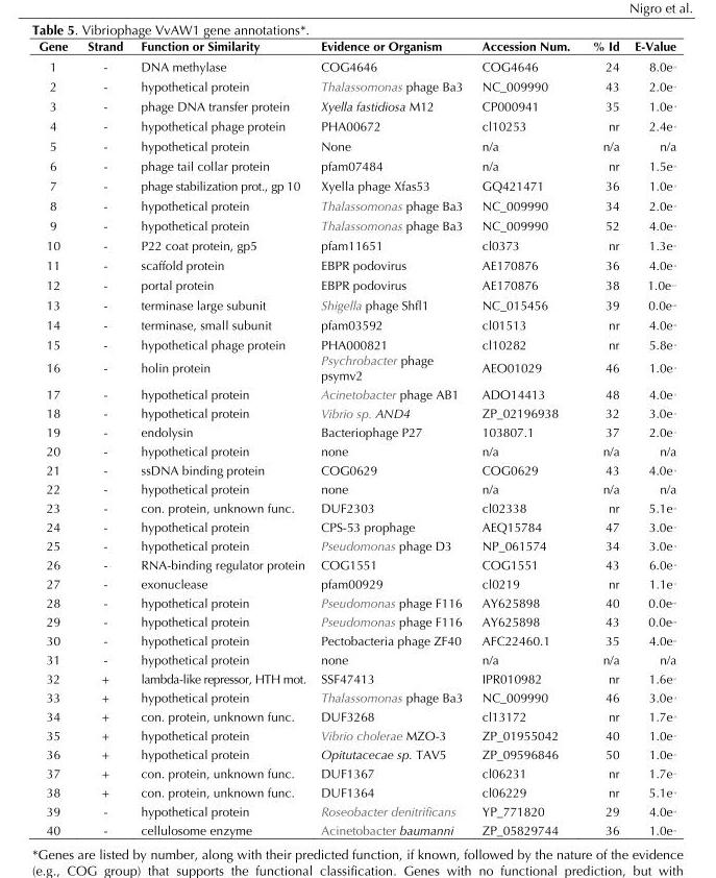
<table><thead><tr><td>Gene</td><td>Strand</td><td>Function or Similarity</td><td>Evidence or Organism</td><td>Accession Num.</td><td>% Id</td><td>E-Value</td></tr></thead><tbody><tr><td>1</td><td>-</td><td>DNA methylase</td><td>COG4646</td><td>COG4646</td><td>24</td><td>8.0e <sup>-65</sup></td></tr><tr><td>2</td><td>-</td><td>hypothetical protein</td><td>Thalassomonas phage Ba3</td><td>NC_009990</td><td>43</td><td>2.0e <sup>-63</sup></td></tr><tr><td>3</td><td>-</td><td>phage DNA transfer protein</td><td>Xyella fastidiosa M12</td><td>CP000941</td><td>35</td><td>1.0e <sup>-19</sup></td></tr><tr><td>4</td><td>-</td><td>hypothetical phage protein</td><td>PHA00672</td><td>cl10253</td><td>nr</td><td>2.4e <sup>-42</sup></td></tr><tr><td>5</td><td>-</td><td>hypothetical protein</td><td>None</td><td>n/a</td><td>n/a</td><td>n/a</td></tr><tr><td>6</td><td>-</td><td>phage tail collar protein</td><td>pfam07484</td><td>n/a</td><td>nr</td><td>1.5e <sup>-05</sup></td></tr><tr><td>7</td><td>-</td><td>phage stabilization prot., gp 10</td><td>Xyella phage Xfas53</td><td>GQ421471</td><td>36</td><td>1.0e <sup>-25</sup></td></tr><tr><td>8</td><td>-</td><td>hypothetical protein</td><td>Thalassomonas phage Ba3</td><td>NC_009990</td><td>34</td><td>2.0e <sup>-25</sup></td></tr><tr><td>9</td><td>-</td><td>hypothetical protein</td><td>Thalassomonas phage Ba3</td><td>NC_009990</td><td>52</td><td>4.0e <sup>-06</sup></td></tr><tr><td>10</td><td>-</td><td>P22 coat protein, gp5</td><td>pfam11651</td><td>cl0373</td><td>nr</td><td>1.3e <sup>-82</sup></td></tr><tr><td>11</td><td>-</td><td>scaffold protein</td><td>EBPR podovirus</td><td>AE170876</td><td>36</td><td>4.0e <sup>-30</sup></td></tr><tr><td>12</td><td>-</td><td>portal protein</td><td>EBPR podovirus</td><td>AE170876</td><td>38</td><td>1.0e <sup>-127</sup></td></tr><tr><td>13</td><td>-</td><td>terminase large subunit</td><td>Shigella phage Shfl1</td><td>NC_015456</td><td>39</td><td>0.0e <sup>+00</sup></td></tr><tr><td>14</td><td>-</td><td>terminase, small subunit</td><td>pfam03592</td><td>cl01513</td><td>nr</td><td>4.0e <sup>-09</sup></td></tr><tr><td>15</td><td>-</td><td>hypothetical phage protein</td><td>PHA000821</td><td>cl10282</td><td>nr</td><td>5.8e <sup>-10</sup></td></tr><tr><td>16</td><td>-</td><td>holin protein</td><td>Psychrobacter phage psymv2</td><td>AEO01029</td><td>46</td><td>1.0e <sup>-13</sup></td></tr><tr><td>17</td><td>-</td><td>hypothetical protein</td><td>Acinetobacter phage AB1</td><td>ADO14413</td><td>48</td><td>4.0e <sup>-21</sup></td></tr><tr><td>18</td><td>-</td><td>hypothetical protein</td><td>Vibrio sp. AND4</td><td>ZP_02196938</td><td>32</td><td>3.0e <sup>-12</sup></td></tr><tr><td>19</td><td>-</td><td>endolysin</td><td>Bacteriophage P27</td><td>103807.1</td><td>37</td><td>2.0e <sup>-11</sup></td></tr><tr><td>20</td><td>-</td><td>hypothetical protein</td><td>none</td><td>n/a</td><td>n/a</td><td>n/a</td></tr><tr><td>21</td><td>-</td><td>ssDNA binding protein</td><td>COG0629</td><td>COG0629</td><td>43</td><td>4.0e <sup>-36</sup></td></tr><tr><td>22</td><td>-</td><td>hypothetical protein</td><td>none</td><td>n/a</td><td>n/a</td><td>n/a</td></tr><tr><td>23</td><td>-</td><td>con. protein, unknown func.</td><td>DUF2303</td><td>cl02338</td><td>nr</td><td>5.1e <sup>-86</sup></td></tr><tr><td>24</td><td>-</td><td>hypothetical protein</td><td>CPS-53 prophage</td><td>AEQ15784</td><td>47</td><td>3.0e <sup>-27</sup></td></tr><tr><td>25</td><td>-</td><td>hypothetical protein</td><td>Pseudomonas phage D3</td><td>NP_061574</td><td>34</td><td>3.0e <sup>-19</sup></td></tr><tr><td>26</td><td>-</td><td>RNA-binding regulator protein</td><td>COG1551</td><td>COG1551</td><td>43</td><td>6.0e <sup>-10</sup></td></tr><tr><td>27</td><td>-</td><td>exonuclease</td><td>pfam00929</td><td>cl0219</td><td>nr</td><td>1.1e <sup>-17</sup></td></tr><tr><td>28</td><td>-</td><td>hypothetical protein</td><td>Pseudomonas phage F116</td><td>AY625898</td><td>40</td><td>0.0e <sup>+00</sup></td></tr><tr><td>29</td><td>-</td><td>hypothetical protein</td><td>Pseudomonas phage F116</td><td>AY625898</td><td>43</td><td>0.0e <sup>+00</sup></td></tr><tr><td>30</td><td>-</td><td>hypothetical protein</td><td>Pectobacteria phage ZF40</td><td>AFC22460.1</td><td>35</td><td>4.0e <sup>-05</sup></td></tr><tr><td>31</td><td>-</td><td>hypothetical protein</td><td>none</td><td>n/a</td><td>n/a</td><td>n/a</td></tr><tr><td>32</td><td>+</td><td>lambda-like repressor, HTH mot.</td><td>SSF47413</td><td>IPR010982</td><td>nr</td><td>1.6e <sup>-07</sup></td></tr><tr><td>33</td><td>+</td><td>hypothetical protein</td><td>Thalassomonas phage Ba3</td><td>NC_009990</td><td>46</td><td>3.0e <sup>-19</sup></td></tr><tr><td>34</td><td>+</td><td>con. protein, unknown func.</td><td>DUF3268</td><td>cl13172</td><td>nr</td><td>1.7e <sup>-29</sup></td></tr><tr><td>35</td><td>+</td><td>hypothetical protein</td><td>Vibrio cholerae MZO-3</td><td>ZP_01955042</td><td>40</td><td>1.0e <sup>-47</sup></td></tr><tr><td>36</td><td>+</td><td>hypothetical protein</td><td>Opitutacecae sp. TAV5</td><td>ZP_09596846</td><td>50</td><td>1.0e <sup>-27</sup></td></tr><tr><td>37</td><td>+</td><td>con. protein, unknown func.</td><td>DUF1367</td><td>cl06231</td><td>nr</td><td>1.7e <sup>-51</sup></td></tr><tr><td>38</td><td>+</td><td>con. protein, unknown func.</td><td>DUF1364</td><td>cl06229</td><td>nr</td><td>5.1e <sup>-38</sup></td></tr><tr><td>39</td><td>-</td><td>hypothetical protein</td><td>Roseobacter denitrificans</td><td>YP_771820</td><td>29</td><td>4.0e <sup>-09</sup></td></tr><tr><td>40</td><td>-</td><td>cellulosome enzyme</td><td>Acinetobacter baumanni</td><td>ZP_05829744</td><td>36</td><td>1.0e <sup>-92</sup></td></tr></tbody></table>